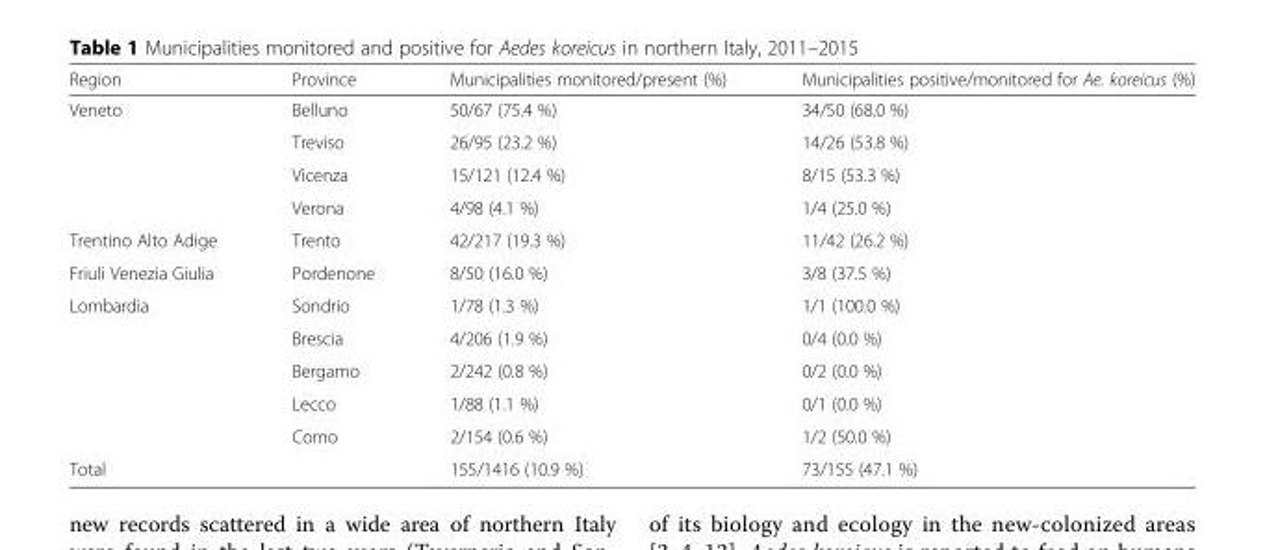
<table><thead><tr><td>Region</td><td>Province</td><td>Municipalities monitored/present (%)</td><td>Municipalities positive/monitored for Ae. koreicus (%)</td></tr></thead><tbody><tr><td rowspan="4">Veneto</td><td>Belluno</td><td>50/67 (75.4 %)</td><td>34/50 (68.0 %)</td></tr><tr><td>Treviso</td><td>26/95 (23.2 %)</td><td>14/26 (53.8 %)</td></tr><tr><td>Vicenza</td><td>15/121 (12.4 %)</td><td>8/15 (53.3 %)</td></tr><tr><td>Verona</td><td>4/98 (4.1 %)</td><td>1/4 (25.0 %)</td></tr><tr><td>Trentino Alto Adige</td><td>Trento</td><td>42/217 (19.3 %)</td><td>11/42 (26.2 %)</td></tr><tr><td>Friuli Venezia Giulia</td><td>Pordenone</td><td>8/50 (16.0 %)</td><td>3/8 (37.5 %)</td></tr><tr><td rowspan="5">Lombardia</td><td>Sondrio</td><td>1/78 (1.3 %)</td><td>1/1 (100.0 %)</td></tr><tr><td>Brescia</td><td>4/206 (1.9 %)</td><td>0/4 (0.0 %)</td></tr><tr><td>Bergamo</td><td>2/242 (0.8 %)</td><td>0/2 (0.0 %)</td></tr><tr><td>Lecco</td><td>1/88 (1.1 %)</td><td>0/1 (0.0 %)</td></tr><tr><td>Como</td><td>2/154 (0.6 %)</td><td>1/2 (50.0 %)</td></tr><tr><td>Total</td><td></td><td>155/1416 (10.9 %)</td><td>73/155 (47.1 %)</td></tr></tbody></table>